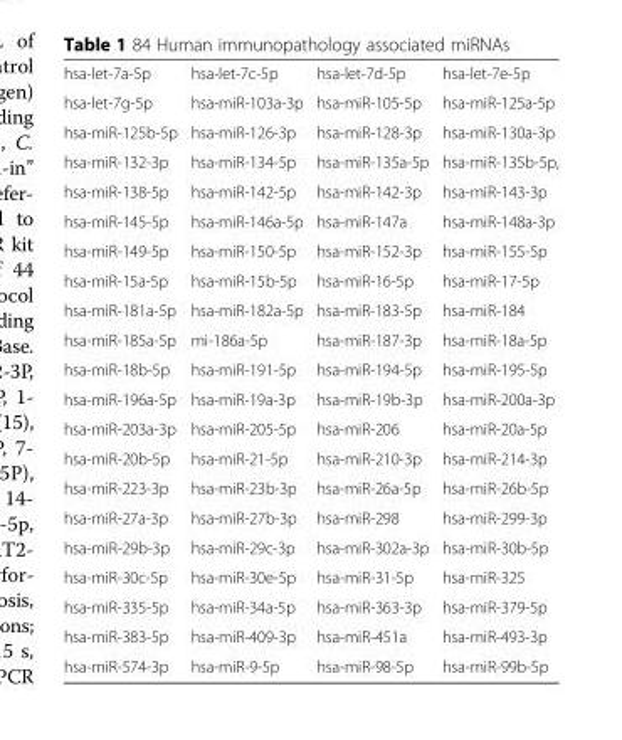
<table><tbody><tr><td>hsa-let-7a-5p</td><td>hsa-let-7c-5p</td><td>hsa-let-7d-5p</td><td>hsa-let-7e-5p</td></tr><tr><td>hsa-let-7g-5p</td><td>hsa-miR-103a-3p</td><td>hsa-miR-105-5p</td><td>hsa-miR-125a-5p</td></tr><tr><td>hsa-miR-125b-5p</td><td>hsa-miR-126-3p</td><td>hsa-miR-128-3p</td><td>hsa-miR-130a-3p</td></tr><tr><td>hsa-miR-132-3p</td><td>hsa-miR-134-5p</td><td>hsa-miR-135a-5p</td><td>hsa-miR-135b-5p,</td></tr><tr><td>hsa-miR-138-5p</td><td>hsa-miR-142-5p</td><td>hsa-miR-142-3p</td><td>hsa-miR-143-3p</td></tr><tr><td>hsa-miR-145-5p</td><td>hsa-miR-146a-5p</td><td>hsa-miR-147a</td><td>hsa-miR-148a-3p</td></tr><tr><td>hsa-miR-149-5p</td><td>hsa-miR-150-5p</td><td>hsa-miR-152-3p</td><td>hsa-miR-155-5p</td></tr><tr><td>hsa-miR-15a-5p</td><td>hsa-miR-15b-5p</td><td>hsa-miR-16-5p</td><td>hsa-miR-17-5p</td></tr><tr><td>hsa-miR-181a-5p</td><td>hsa-miR-182a-5p</td><td>hsa-miR-183-5p</td><td>hsa-miR-184</td></tr><tr><td>hsa-miR-185a-5p</td><td>mi-186a-5p</td><td>hsa-miR-187-3p</td><td>hsa-miR-18a-5p</td></tr><tr><td>hsa-miR-18b-5p</td><td>hsa-miR-191-5p</td><td>hsa-miR-194-5p</td><td>hsa-miR-195-5p</td></tr><tr><td>hsa-miR-196a-5p</td><td>hsa-miR-19a-3p</td><td>hsa-miR-19b-3p</td><td>hsa-miR-200a-3p</td></tr><tr><td>hsa-miR-203a-3p</td><td>hsa-miR-205-5p</td><td>hsa-miR-206</td><td>hsa-miR-20a-5p</td></tr><tr><td>hsa-miR-20b-5p</td><td>hsa-miR-21-5p</td><td>hsa-miR-210-3p</td><td>hsa-miR-214-3p</td></tr><tr><td>hsa-miR-223-3p</td><td>hsa-miR-23b-3p</td><td>hsa-miR-26a-5p</td><td>hsa-miR-26b-5p</td></tr><tr><td>hsa-miR-27a-3p</td><td>hsa-miR-27b-3p</td><td>hsa-miR-298</td><td>hsa-miR-299-3p</td></tr><tr><td>hsa-miR-29b-3p</td><td>hsa-miR-29c-3p</td><td>hsa-miR-302a-3p</td><td>hsa-miR-30b-5p</td></tr><tr><td>hsa-miR-30c-5p</td><td>hsa-miR-30e-5p</td><td>hsa-miR-31-5p</td><td>hsa-miR-325</td></tr><tr><td>hsa-miR-335-5p</td><td>hsa-miR-34a-5p</td><td>hsa-miR-363-3p</td><td>hsa-miR-379-5p</td></tr><tr><td>hsa-miR-383-5p</td><td>hsa-miR-409-3p</td><td>hsa-miR-451a</td><td>hsa-miR-493-3p</td></tr><tr><td>hsa-miR-574-3p</td><td>hsa-miR-9-5p</td><td>hsa-miR-98-5p</td><td>hsa-miR-99b-5p</td></tr></tbody></table>